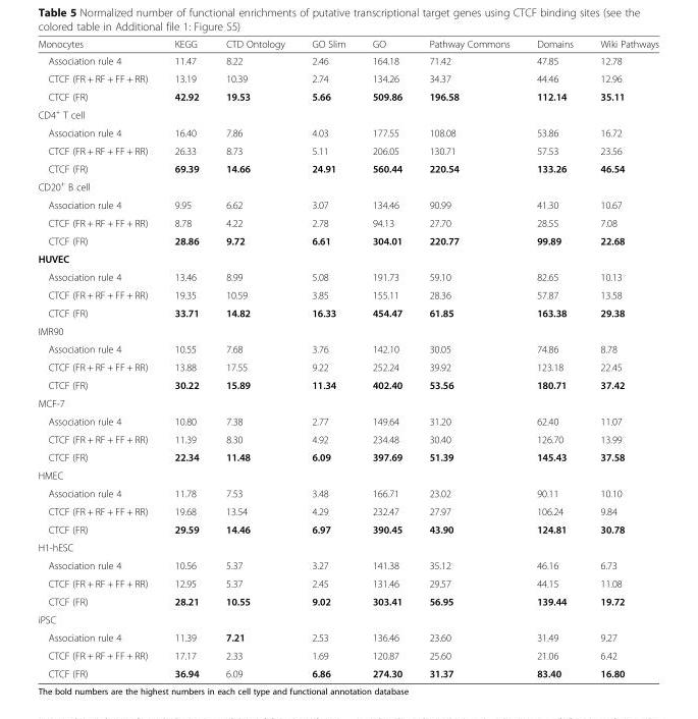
<table><thead><tr><td>Monocytes</td><td>KEGG</td><td>CTD Ontology</td><td>GO Slim</td><td>GO</td><td>Pathway Commons</td><td>Domains</td><td>Wiki Pathways</td></tr></thead><tbody><tr><td>Association rule 4</td><td>11.47</td><td>8.22</td><td>2.46</td><td>164.18</td><td>71.42</td><td>47.85</td><td>12.78</td></tr><tr><td>CTCF (FR + RF + FF + RR)</td><td>13.19</td><td>10.39</td><td>2.74</td><td>134.26</td><td>34.37</td><td>44.46</td><td>12.96</td></tr><tr><td>CTCF (FR)</td><td>42.92</td><td>19.53</td><td>5.66</td><td>509.86</td><td>196.58</td><td>112.14</td><td>35.11</td></tr><tr><td colspan="8">CD4<sup>+</sup> T cell</td></tr><tr><td>Association rule 4</td><td>16.40</td><td>7.86</td><td>4.03</td><td>177.55</td><td>108.08</td><td>53.86</td><td>16.72</td></tr><tr><td>CTCF (FR + RF + FF + RR)</td><td>26.33</td><td>8.73</td><td>5.11</td><td>206.05</td><td>130.71</td><td>57.53</td><td>23.56</td></tr><tr><td>CTCF (FR)</td><td>69.39</td><td>14.66</td><td>24.91</td><td>560.44</td><td>220.54</td><td>133.26</td><td>46.54</td></tr><tr><td colspan="8">CD20<sup>+</sup> B cell</td></tr><tr><td>Association rule 4</td><td>9.95</td><td>6.62</td><td>3.07</td><td>134.46</td><td>90.99</td><td>41.30</td><td>10.67</td></tr><tr><td>CTCF (FR + RF + FF + RR)</td><td>8.78</td><td>4.22</td><td>2.78</td><td>94.13</td><td>27.70</td><td>28.55</td><td>7.08</td></tr><tr><td>CTCF (FR)</td><td>28.86</td><td>9.72</td><td>6.61</td><td>304.01</td><td>220.77</td><td>99.89</td><td>22.68</td></tr><tr><td colspan="8">HUVEC</td></tr><tr><td>Association rule 4</td><td>13.46</td><td>8.99</td><td>5.08</td><td>191.73</td><td>59.10</td><td>82.65</td><td>10.13</td></tr><tr><td>CTCF (FR + RF + FF + RR)</td><td>19.35</td><td>10.59</td><td>3.85</td><td>155.11</td><td>28.36</td><td>57.87</td><td>13.58</td></tr><tr><td>CTCF (FR)</td><td>33.71</td><td>14.82</td><td>16.33</td><td>454.47</td><td>61.85</td><td>163.38</td><td>29.38</td></tr><tr><td colspan="8">IMR90</td></tr><tr><td>Association rule 4</td><td>10.55</td><td>7.68</td><td>3.76</td><td>142.10</td><td>30.05</td><td>74.86</td><td>8.78</td></tr><tr><td>CTCF (FR + RF + FF + RR)</td><td>13.88</td><td>17.55</td><td>9.22</td><td>252.24</td><td>39.92</td><td>123.18</td><td>22.45</td></tr><tr><td>CTCF (FR)</td><td>30.22</td><td>15.89</td><td>11.34</td><td>402.40</td><td>53.56</td><td>180.71</td><td>37.42</td></tr><tr><td colspan="8">MCF-7</td></tr><tr><td>Association rule 4</td><td>10.80</td><td>7.38</td><td>2.77</td><td>149.64</td><td>31.20</td><td>62.40</td><td>11.07</td></tr><tr><td>CTCF (FR + RF + FF + RR)</td><td>11.39</td><td>8.30</td><td>4.92</td><td>234.48</td><td>30.40</td><td>126.70</td><td>13.99</td></tr><tr><td>CTCF (FR)</td><td>22.34</td><td>11.48</td><td>6.09</td><td>397.69</td><td>51.39</td><td>145.43</td><td>37.58</td></tr><tr><td colspan="8">HMEC</td></tr><tr><td>Association rule 4</td><td>11.78</td><td>7.53</td><td>3.48</td><td>166.71</td><td>23.02</td><td>90.11</td><td>10.10</td></tr><tr><td>CTCF (FR + RF + FF + RR)</td><td>19.68</td><td>13.54</td><td>4.29</td><td>232.47</td><td>27.97</td><td>106.24</td><td>9.84</td></tr><tr><td>CTCF (FR)</td><td>29.59</td><td>14.46</td><td>6.97</td><td>390.45</td><td>43.90</td><td>124.81</td><td>30.78</td></tr><tr><td colspan="8">H1-hESC</td></tr><tr><td>Association rule 4</td><td>10.56</td><td>5.37</td><td>3.27</td><td>141.38</td><td>35.12</td><td>46.16</td><td>6.73</td></tr><tr><td>CTCF (FR + RF + FF + RR)</td><td>12.95</td><td>5.37</td><td>2.45</td><td>131.46</td><td>29.57</td><td>44.15</td><td>11.08</td></tr><tr><td>CTCF (FR)</td><td>28.21</td><td>10.55</td><td>9.02</td><td>303.41</td><td>56.95</td><td>139.44</td><td>19.72</td></tr><tr><td colspan="8">iPSC</td></tr><tr><td>Association rule 4</td><td>11.39</td><td>7.21</td><td>2.53</td><td>136.46</td><td>23.60</td><td>31.49</td><td>9.27</td></tr><tr><td>CTCF (FR + RF + FF + RR)</td><td>17.17</td><td>2.33</td><td>1.69</td><td>120.87</td><td>25.60</td><td>21.06</td><td>6.42</td></tr><tr><td>CTCF (FR)</td><td>36.94</td><td>6.09</td><td>6.86</td><td>274.30</td><td>31.37</td><td>83.40</td><td>16.80</td></tr></tbody></table>